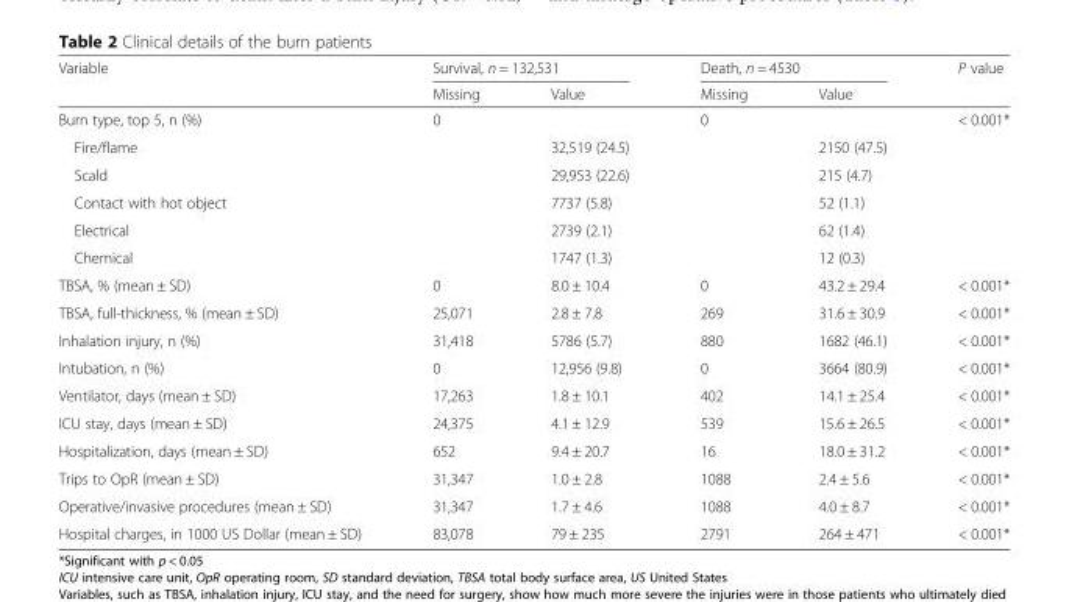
<table><thead><tr><td rowspan="2">Variable</td><td colspan="2">Survival, n = 132,531</td><td colspan="2">Death, n = 4530</td><td rowspan="2">P value</td></tr><tr><td>Missing</td><td>Value</td><td>Missing</td><td>Value</td></tr></thead><tbody><tr><td>Burn type, top 5, n (%)</td><td>0</td><td></td><td>0</td><td></td><td>&lt; 0.001*</td></tr><tr><td>Fire/flame</td><td></td><td>32,519 (24.5)</td><td></td><td>2150 (47.5)</td><td></td></tr><tr><td>Scald</td><td></td><td>29,953 (22.6)</td><td></td><td>215 (4.7)</td><td></td></tr><tr><td>Contact with hot object</td><td></td><td>7737 (5.8)</td><td></td><td>52 (1.1)</td><td></td></tr><tr><td>Electrical</td><td></td><td>2739 (2.1)</td><td></td><td>62 (1.4)</td><td></td></tr><tr><td>Chemical</td><td></td><td>1747 (1.3)</td><td></td><td>12 (0.3)</td><td></td></tr><tr><td>TBSA, % (mean ± SD)</td><td>0</td><td>8.0 ± 10.4</td><td>0</td><td>43.2 ± 29.4</td><td>&lt; 0.001*</td></tr><tr><td>TBSA, full-thickness, % (mean ± SD)</td><td>25,071</td><td>2.8 ± 7.8</td><td>269</td><td>31.6 ± 30.9</td><td>&lt; 0.001*</td></tr><tr><td>Inhalation injury, n (%)</td><td>31,418</td><td>5786 (5.7)</td><td>880</td><td>1682 (46.1)</td><td>&lt; 0.001*</td></tr><tr><td>Intubation, n (%)</td><td>0</td><td>12,956 (9.8)</td><td>0</td><td>3664 (80.9)</td><td>&lt; 0.001*</td></tr><tr><td>Ventilator, days (mean ± SD)</td><td>17,263</td><td>1.8 ± 10.1</td><td>402</td><td>14.1 ± 25.4</td><td>&lt; 0.001*</td></tr><tr><td>ICU stay, days (mean ± SD)</td><td>24,375</td><td>4.1 ± 12.9</td><td>539</td><td>15.6 ± 26.5</td><td>&lt; 0.001*</td></tr><tr><td>Hospitalization, days (mean ± SD)</td><td>652</td><td>9.4 ± 20.7</td><td>16</td><td>18.0 ± 31.2</td><td>&lt; 0.001*</td></tr><tr><td>Trips to OpR (mean ± SD)</td><td>31,347</td><td>1.0 ± 2.8</td><td>1088</td><td>2.4 ± 5.6</td><td>&lt; 0.001*</td></tr><tr><td>Operative/invasive procedures (mean ± SD)</td><td>31,347</td><td>1.7 ± 4.6</td><td>1088</td><td>4.0 ± 8.7</td><td>&lt; 0.001*</td></tr><tr><td>Hospital charges, in 1000 US Dollar (mean ± SD)</td><td>83,078</td><td>79 ± 235</td><td>2791</td><td>264 ± 471</td><td>&lt; 0.001*</td></tr></tbody></table>